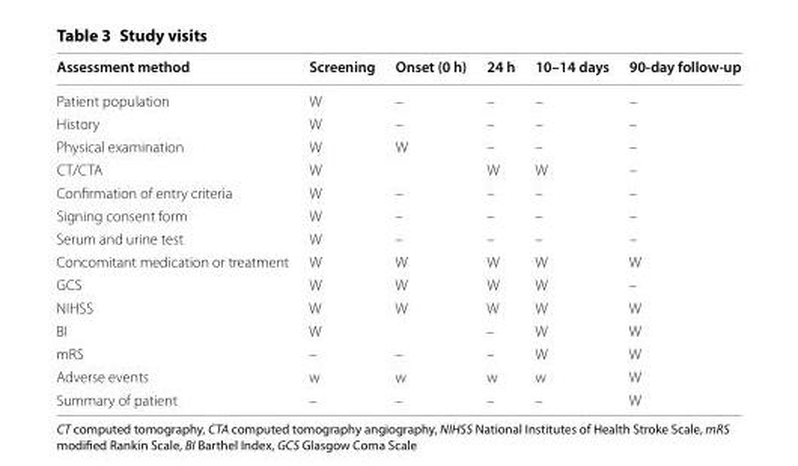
<table><thead><tr><td>Assessment method</td><td>Screening</td><td>Onset (0 h)</td><td>24 h</td><td>10–14 days</td><td>90‑day follow‑up</td></tr></thead><tbody><tr><td>Patient population</td><td>W</td><td>–</td><td>–</td><td>–</td><td>–</td></tr><tr><td>History</td><td>W</td><td>–</td><td>–</td><td>–</td><td>–</td></tr><tr><td>Physical examination</td><td>W</td><td>W</td><td>–</td><td>–</td><td>–</td></tr><tr><td>CT/CTA</td><td>W</td><td></td><td>W</td><td>W</td><td>–</td></tr><tr><td>Confirmation of entry criteria</td><td>W</td><td>–</td><td>–</td><td>–</td><td>–</td></tr><tr><td>Signing consent form</td><td>W</td><td>–</td><td>–</td><td>–</td><td>–</td></tr><tr><td>Serum and urine test</td><td>W</td><td>–</td><td>–</td><td>–</td><td>–</td></tr><tr><td>Concomitant medication or treatment</td><td>W</td><td>W</td><td>W</td><td>W</td><td>W</td></tr><tr><td>GCS</td><td>W</td><td>W</td><td>W</td><td>W</td><td>–</td></tr><tr><td>NIHSS</td><td>W</td><td>W</td><td>W</td><td>W</td><td>W</td></tr><tr><td>BI</td><td>W</td><td></td><td>–</td><td>W</td><td>W</td></tr><tr><td>mRS</td><td>–</td><td>–</td><td>–</td><td>W</td><td>W</td></tr><tr><td>Adverse events</td><td>w</td><td>w</td><td>w</td><td>w</td><td>W</td></tr><tr><td>Summary of patient</td><td>–</td><td>–</td><td>–</td><td>–</td><td>W</td></tr></tbody></table>